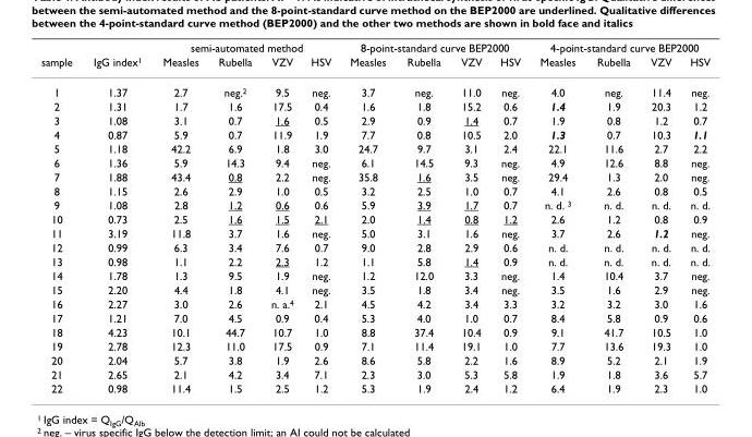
<table><thead><tr><td rowspan="2">sample</td><td rowspan="2">IgG index<sup>1</sup></td><td colspan="4">semi-automated method</td><td colspan="4">8-point-standard curve BEP2000</td><td colspan="4">4-point-standard curve BEP2000</td></tr><tr><td>Measles</td><td>Rubella</td><td>VZV</td><td>HSV</td><td>Measles</td><td>Rubella</td><td>VZV</td><td>HSV</td><td>Measles</td><td>Rubella</td><td>VZV</td><td>HSV</td></tr></thead><tbody><tr><td>1</td><td>1.37</td><td>2.7</td><td>neg.<sup>2</sup></td><td>9.5</td><td>neg.</td><td>3.7</td><td>neg.</td><td>11.0</td><td>neg.</td><td>4.0</td><td>neg.</td><td>11.4</td><td>neg.</td></tr><tr><td>2</td><td>1.31</td><td>1.7</td><td>1.6</td><td>17.5</td><td>0.4</td><td>1.6</td><td>1.8</td><td>15.2</td><td>0.6</td><td>1.4</td><td>1.9</td><td>20.3</td><td>1.2</td></tr><tr><td>3</td><td>1.08</td><td>3.1</td><td>0.7</td><td>1.6</td><td>0.5</td><td>2.9</td><td>0.9</td><td>1.4</td><td>0.7</td><td>1.9</td><td>0.8</td><td>1.2</td><td>0.7</td></tr><tr><td>4</td><td>0.87</td><td>5.9</td><td>0.7</td><td>11.9</td><td>1.9</td><td>7.7</td><td>0.8</td><td>10.5</td><td>2.0</td><td>1.3</td><td>0.7</td><td>10.3</td><td>1.1</td></tr><tr><td>5</td><td>1.18</td><td>42.2</td><td>6.9</td><td>1.8</td><td>3.0</td><td>24.7</td><td>9.7</td><td>3.1</td><td>2.4</td><td>22.1</td><td>11.6</td><td>2.7</td><td>2.2</td></tr><tr><td>6</td><td>1.36</td><td>5.9</td><td>14.3</td><td>9.4</td><td>neg.</td><td>6.1</td><td>14.5</td><td>9.3</td><td>neg.</td><td>4.9</td><td>12.6</td><td>8.8</td><td>neg.</td></tr><tr><td>7</td><td>1.88</td><td>43.4</td><td>0.8</td><td>2.2</td><td>neg.</td><td>35.8</td><td>1.6</td><td>3.5</td><td>neg.</td><td>29.4</td><td>1.3</td><td>2.0</td><td>neg.</td></tr><tr><td>8</td><td>1.15</td><td>2.6</td><td>2.9</td><td>1.0</td><td>0.5</td><td>3.2</td><td>2.5</td><td>1.0</td><td>0.7</td><td>4.1</td><td>2.6</td><td>0.8</td><td>0.5</td></tr><tr><td>9</td><td>1.08</td><td>2.8</td><td>1.2</td><td>0.6</td><td>0.6</td><td>5.9</td><td>3.9</td><td>1.7</td><td>0.7</td><td>n. d. <sup>3</sup></td><td>n. d.</td><td>n. d.</td><td>n. d.</td></tr><tr><td>10</td><td>0.73</td><td>2.5</td><td>1.6</td><td>1.5</td><td>2.1</td><td>2.0</td><td>1.4</td><td>0.8</td><td>1.2</td><td>2.6</td><td>1.2</td><td>0.8</td><td>0.9</td></tr><tr><td>11</td><td>3.19</td><td>11.8</td><td>3.7</td><td>1.6</td><td>neg.</td><td>5.0</td><td>3.1</td><td>1.6</td><td>neg.</td><td>3.7</td><td>2.6</td><td>1.2</td><td>neg.</td></tr><tr><td>12</td><td>0.99</td><td>6.3</td><td>3.4</td><td>7.6</td><td>0.7</td><td>9.0</td><td>2.8</td><td>2.9</td><td>0.6</td><td>n. d.</td><td>n. d.</td><td>n. d.</td><td>n. d.</td></tr><tr><td>13</td><td>0.98</td><td>1.1</td><td>2.2</td><td>2.3</td><td>1.2</td><td>1.1</td><td>5.8</td><td>1.4</td><td>0.9</td><td>n. d.</td><td>n. d.</td><td>n. d.</td><td>n. d.</td></tr><tr><td>14</td><td>1.78</td><td>1.3</td><td>9.5</td><td>1.9</td><td>neg.</td><td>1.2</td><td>12.0</td><td>3.3</td><td>neg.</td><td>1.4</td><td>10.4</td><td>3.7</td><td>neg.</td></tr><tr><td>15</td><td>2.20</td><td>4.4</td><td>1.8</td><td>4.1</td><td>neg.</td><td>3.5</td><td>1.8</td><td>3.4</td><td>neg.</td><td>3.5</td><td>1.6</td><td>2.9</td><td>neg.</td></tr><tr><td>16</td><td>2.27</td><td>3.0</td><td>2.6</td><td>n. a.<sup>4</sup></td><td>2.1</td><td>4.5</td><td>4.2</td><td>3.4</td><td>3.3</td><td>3.2</td><td>3.2</td><td>3.0</td><td>1.6</td></tr><tr><td>17</td><td>1.21</td><td>7.0</td><td>4.5</td><td>0.9</td><td>0.4</td><td>5.3</td><td>4.0</td><td>1.0</td><td>0.7</td><td>8.4</td><td>5.8</td><td>0.9</td><td>0.6</td></tr><tr><td>18</td><td>4.23</td><td>10.1</td><td>44.7</td><td>10.7</td><td>1.0</td><td>8.8</td><td>37.4</td><td>10.4</td><td>0.9</td><td>9.1</td><td>41.7</td><td>10.5</td><td>1.0</td></tr><tr><td>19</td><td>2.78</td><td>12.3</td><td>11.0</td><td>17.5</td><td>0.9</td><td>7.1</td><td>11.4</td><td>19.1</td><td>1.0</td><td>7.7</td><td>13.6</td><td>19.3</td><td>1.0</td></tr><tr><td>20</td><td>2.04</td><td>5.7</td><td>3.8</td><td>1.9</td><td>2.6</td><td>8.6</td><td>5.8</td><td>2.2</td><td>1.6</td><td>8.9</td><td>5.2</td><td>2.1</td><td>1.9</td></tr><tr><td>21</td><td>2.65</td><td>2.1</td><td>4.2</td><td>3.4</td><td>7.1</td><td>2.3</td><td>3.0</td><td>5.3</td><td>5.8</td><td>1.9</td><td>1.8</td><td>3.6</td><td>5.7</td></tr><tr><td>22</td><td>0.98</td><td>11.4</td><td>1.5</td><td>2.5</td><td>1.2</td><td>5.3</td><td>1.9</td><td>2.4</td><td>1.2</td><td>6.4</td><td>1.9</td><td>2.3</td><td>1.0</td></tr></tbody></table>